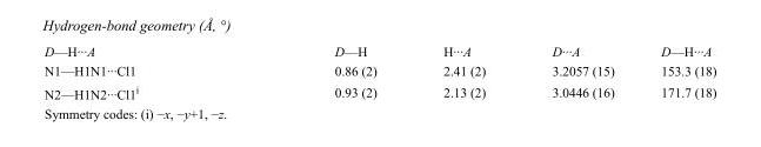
<table><tbody><tr><td>D—H···A</td><td>D—H</td><td>H···A</td><td>D···A</td><td>D—H···A</td></tr><tr><td>N1—H1N1···Cl1</td><td>0.86 (2)</td><td>2.41 (2)</td><td>3.2057 (15)</td><td>153.3 (18)</td></tr><tr><td>N2—H1N2···Cl1<sup>i</sup></td><td>0.93 (2)</td><td>2.13 (2)</td><td>3.0446 (16)</td><td>171.7 (18)</td></tr></tbody></table>